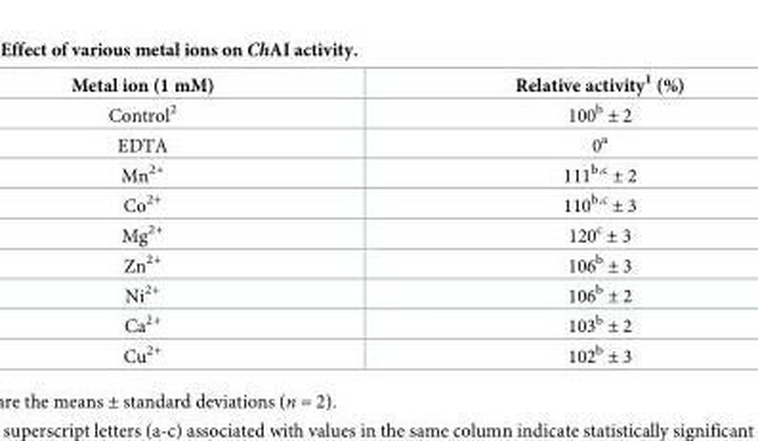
<table><thead><tr><td>Metal ion (1 mM)</td><td>Relative activity<sup>1</sup> (%)</td></tr></thead><tbody><tr><td>Control<sup>2</sup></td><td>100<sup>b</sup> ± 2</td></tr><tr><td>EDTA</td><td>0<sup>a</sup></td></tr><tr><td>Mn<sup>2+</sup></td><td>111<sup>b,c</sup> ± 2</td></tr><tr><td>Co<sup>2+</sup></td><td>110<sup>b,c</sup> ± 3</td></tr><tr><td>Mg<sup>2+</sup></td><td>120<sup>c</sup> ± 3</td></tr><tr><td>Zn<sup>2+</sup></td><td>106<sup>b</sup> ± 3</td></tr><tr><td>Ni<sup>2+</sup></td><td>106<sup>b</sup> ± 2</td></tr><tr><td>Ca<sup>2+</sup></td><td>103<sup>b</sup> ± 2</td></tr><tr><td>Cu<sup>2+</sup></td><td>102<sup>b</sup> ± 3</td></tr></tbody></table>